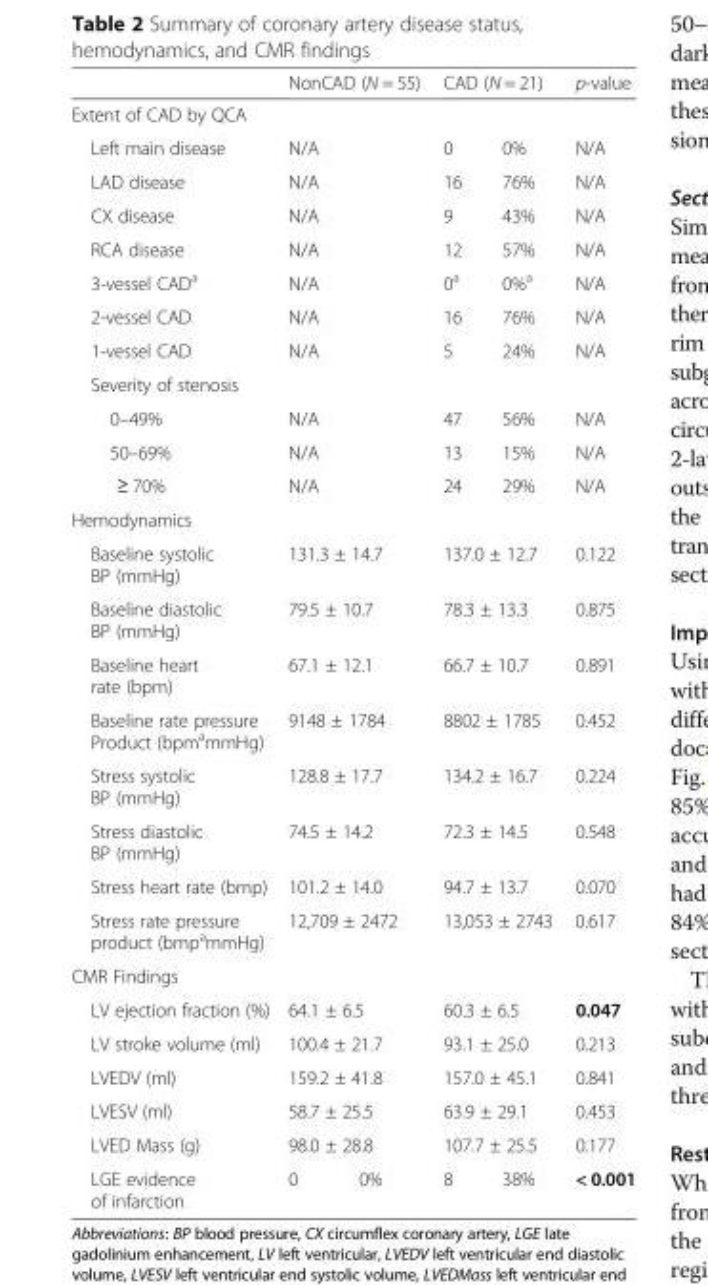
<table><thead><tr><td></td><td colspan="2">NonCAD (N = 55)</td><td colspan="2">CAD (N = 21)</td><td>p-value</td></tr></thead><tbody><tr><td colspan="6">Extent of CAD by QCA</td></tr><tr><td>Left main disease</td><td colspan="2">N/A</td><td>0</td><td>0%</td><td>N/A</td></tr><tr><td>LAD disease</td><td colspan="2">N/A</td><td>16</td><td>76%</td><td>N/A</td></tr><tr><td>CX disease</td><td colspan="2">N/A</td><td>9</td><td>43%</td><td>N/A</td></tr><tr><td>RCA disease</td><td colspan="2">N/A</td><td>12</td><td>57%</td><td>N/A</td></tr><tr><td>3-vessel CAD<sup>a</sup></td><td colspan="2">N/A</td><td>0<sup>a</sup></td><td>0%<sup>a</sup></td><td>N/A</td></tr><tr><td>2-vessel CAD</td><td colspan="2">N/A</td><td>16</td><td>76%</td><td>N/A</td></tr><tr><td>1-vessel CAD</td><td colspan="2">N/A</td><td>5</td><td>24%</td><td>N/A</td></tr><tr><td colspan="6">Severity of stenosis</td></tr><tr><td>0–49%</td><td colspan="2">N/A</td><td>47</td><td>56%</td><td>N/A</td></tr><tr><td>50–69%</td><td colspan="2">N/A</td><td>13</td><td>15%</td><td>N/A</td></tr><tr><td>≥ 70%</td><td colspan="2">N/A</td><td>24</td><td>29%</td><td>N/A</td></tr><tr><td colspan="6">Hemodynamics</td></tr><tr><td>Baseline systolic BP (mmHg)</td><td colspan="2">131.3 ± 14.7</td><td colspan="2">137.0 ± 12.7</td><td>0.122</td></tr><tr><td>Baseline diastolic BP (mmHg)</td><td colspan="2">79.5 ± 10.7</td><td colspan="2">78.3 ± 13.3</td><td>0.875</td></tr><tr><td>Baseline heart rate (bpm)</td><td colspan="2">67.1 ± 12.1</td><td colspan="2">66.7 ± 10.7</td><td>0.891</td></tr><tr><td>Baseline rate pressure Product (bpm<sup>a</sup>mmHg)</td><td colspan="2">9148 ± 1784</td><td colspan="2">8802 ± 1785</td><td>0.452</td></tr><tr><td>Stress systolic BP (mmHg)</td><td colspan="2">128.8 ± 17.7</td><td colspan="2">134.2 ± 16.7</td><td>0.224</td></tr><tr><td>Stress diastolic BP (mmHg)</td><td colspan="2">74.5 ± 14.2</td><td colspan="2">72.3 ± 14.5</td><td>0.548</td></tr><tr><td>Stress heart rate (bmp)</td><td colspan="2">101.2 ± 14.0</td><td colspan="2">94.7 ± 13.7</td><td>0.070</td></tr><tr><td>Stress rate pressure product (bmp<sup>a</sup>mmHg)</td><td colspan="2">12,709 ± 2472</td><td colspan="2">13,053 ± 2743</td><td>0.617</td></tr><tr><td colspan="6">CMR Findings</td></tr><tr><td>LV ejection fraction (%)</td><td colspan="2">64.1 ± 6.5</td><td colspan="2">60.3 ± 6.5</td><td>0.047</td></tr><tr><td>LV stroke volume (ml)</td><td colspan="2">100.4 ± 21.7</td><td colspan="2">93.1 ± 25.0</td><td>0.213</td></tr><tr><td>LVEDV (ml)</td><td colspan="2">159.2 ± 41.8</td><td colspan="2">157.0 ± 45.1</td><td>0.841</td></tr><tr><td>LVESV (ml)</td><td colspan="2">58.7 ± 25.5</td><td colspan="2">63.9 ± 29.1</td><td>0.453</td></tr><tr><td>LVED Mass (g)</td><td colspan="2">98.0 ± 28.8</td><td colspan="2">107.7 ± 25.5</td><td>0.177</td></tr><tr><td>LGE evidence of infarction</td><td>0</td><td>0%</td><td>8</td><td>38%</td><td>&lt; 0.001</td></tr></tbody></table>